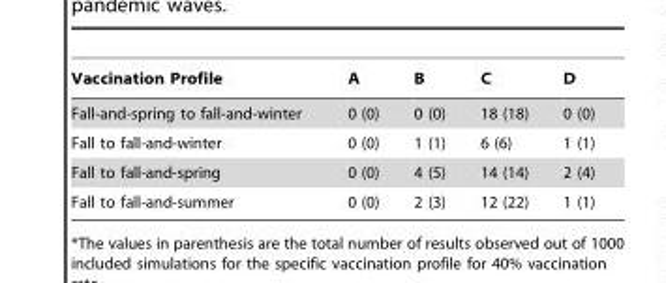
<table><thead><tr><td>Vaccination Profile</td><td>A</td><td>B</td><td>C</td><td>D</td></tr></thead><tbody><tr><td>Fall-and-spring to fall-and-winter</td><td>0 (0)</td><td>0 (0)</td><td>18 (18)</td><td>0 (0)</td></tr><tr><td>Fall to fall-and-winter</td><td>0 (0)</td><td>1 (1)</td><td>6 (6)</td><td>1 (1)</td></tr><tr><td>Fall to fall-and-spring</td><td>0 (0)</td><td>4 (5)</td><td>14 (14)</td><td>2 (4)</td></tr><tr><td>Fall to fall-and-summer</td><td>0 (0)</td><td>2 (3)</td><td>12 (22)</td><td>1 (1)</td></tr></tbody></table>